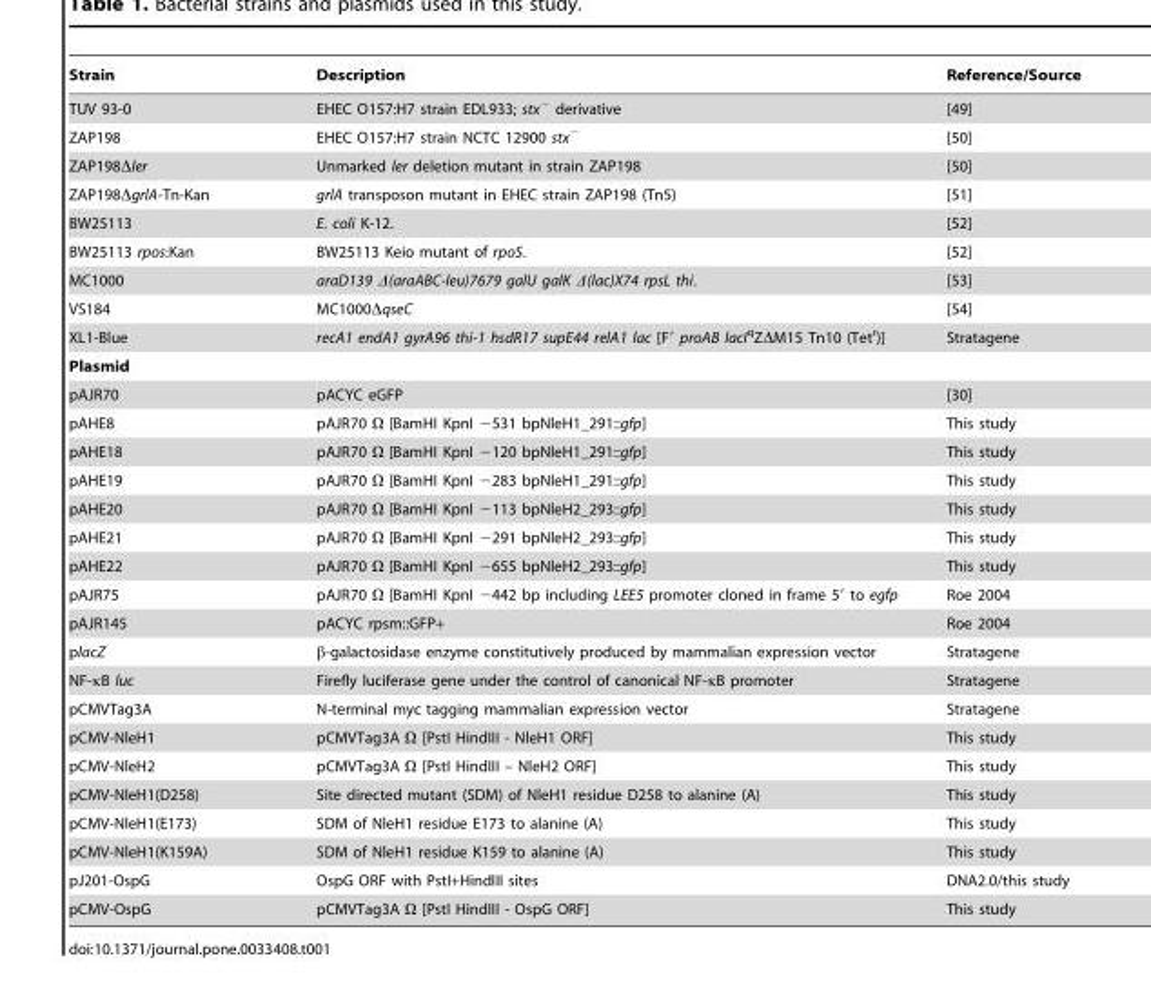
<table><thead><tr><td>Strain</td><td>Description</td><td>Reference/Source</td></tr></thead><tbody><tr><td>TUV 93-0</td><td>EHEC O157:H7 strain EDL933; stx<sup>−</sup> derivative</td><td>[49]</td></tr><tr><td>ZAP198</td><td>EHEC O157:H7 strain NCTC 12900 stx<sup>−</sup></td><td>[50]</td></tr><tr><td>ZAP198Δler</td><td>Unmarked ler deletion mutant in strain ZAP198</td><td>[50]</td></tr><tr><td>ZAP198ΔgrlA-Tn-Kan</td><td>grlA transposon mutant in EHEC strain ZAP198 (Tn5)</td><td>[51]</td></tr><tr><td>BW25113</td><td>E. coli K-12.</td><td>[52]</td></tr><tr><td>BW25113 rpos:Kan</td><td>BW25113 Keio mutant of rpoS.</td><td>[52]</td></tr><tr><td>MC1000</td><td>araD139 Δ(araABC-leu)7679 galU galK Δ(lac)X74 rpsL thi.</td><td>[53]</td></tr><tr><td>VS184</td><td>MC1000ΔqseC</td><td>[54]</td></tr><tr><td>XL1-Blue</td><td>recA1 endA1 gyrA96 thi-1 hsdR17 supE44 relA1 lac [F′ proAB lacI<sup>q</sup>ZΔM15 Tn10 (Tet<sup>r</sup>)]</td><td>Stratagene</td></tr><tr><td colspan="3">Plasmid</td></tr><tr><td>pAJR70</td><td>pACYC eGFP</td><td>[30]</td></tr><tr><td>pAHE8</td><td>pAJR70 Ω [BamHI KpnI −531 bpNleH1_291::gfp]</td><td>This study</td></tr><tr><td>pAHE18</td><td>pAJR70 Ω [BamHI KpnI −120 bpNleH1_291::gfp]</td><td>This study</td></tr><tr><td>pAHE19</td><td>pAJR70 Ω [BamHI KpnI −283 bpNleH1_291::gfp]</td><td>This study</td></tr><tr><td>pAHE20</td><td>pAJR70 Ω [BamHI KpnI −113 bpNleH2_293::gfp]</td><td>This study</td></tr><tr><td>pAHE21</td><td>pAJR70 Ω [BamHI KpnI −291 bpNleH2_293::gfp]</td><td>This study</td></tr><tr><td>pAHE22</td><td>pAJR70 Ω [BamHI KpnI −655 bpNleH2_293::gfp]</td><td>This study</td></tr><tr><td>pAJR75</td><td>pAJR70 Ω [BamHI KpnI −442 bp including LEE5 promoter cloned in frame 5′ to egfp</td><td>Roe 2004</td></tr><tr><td>pAJR145</td><td>pACYC rpsm::GFP+</td><td>Roe 2004</td></tr><tr><td>placZ</td><td>β-galactosidase enzyme constitutively produced by mammalian expression vector</td><td>Stratagene</td></tr><tr><td>NF-κB luc</td><td>Firefly luciferase gene under the control of canonical NF-κB promoter</td><td>Stratagene</td></tr><tr><td>pCMVTag3A</td><td>N-terminal myc tagging mammalian expression vector</td><td>Stratagene</td></tr><tr><td>pCMV-NleH1</td><td>pCMVTag3A Ω [PstI HindIII - NleH1 ORF]</td><td>This study</td></tr><tr><td>pCMV-NleH2</td><td>pCMVTag3A Ω [PstI HindIII – NleH2 ORF]</td><td>This study</td></tr><tr><td>pCMV-NleH1(D258)</td><td>Site directed mutant (SDM) of NleH1 residue D258 to alanine (A)</td><td>This study</td></tr><tr><td>pCMV-NleH1(E173)</td><td>SDM of NleH1 residue E173 to alanine (A)</td><td>This study</td></tr><tr><td>pCMV-NleH1(K159A)</td><td>SDM of NleH1 residue K159 to alanine (A)</td><td>This study</td></tr><tr><td>pJ201-OspG</td><td>OspG ORF with PstI+HindIII sites</td><td>DNA2.0/this study</td></tr><tr><td>pCMV-OspG</td><td>pCMVTag3A Ω [PstI HindIII - OspG ORF]</td><td>This study</td></tr></tbody></table>